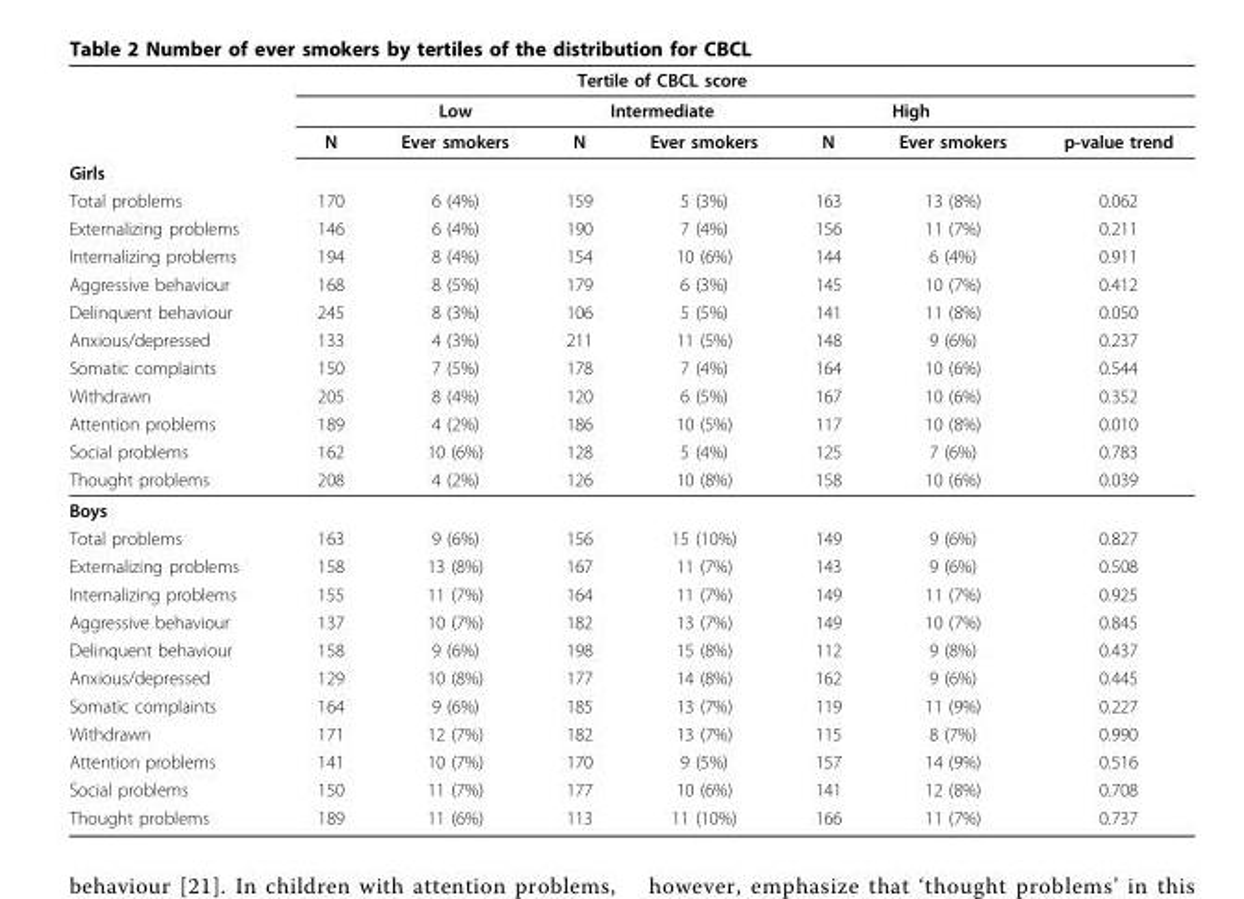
<table><thead><tr><td rowspan="15">Girls Total problems Externalizing problems Internalizing problems Aggressive behaviour Delinquent behaviour Anxious/depressed Somatic complaints Withdrawn Attention problems Social problems Thought problems</td><td colspan="6">Tertile of CBCL score</td><td rowspan="15">p-value trend 0.062 0.211 0.911 0.412 0.050 0.237 0.544 0.352 0.010 0.783 0.039</td></tr><tr><td rowspan="14">N 170 146 194 168 245 133 150 205 189 162 208</td><td rowspan="14">Low Ever smokers 6 (4%) 6 (4%) 8 (4%) 8 (5%) 8 (3%) 4 (3%) 7 (5%) 8 (4%) 4 (2%) 10 (6%) 4 (2%)</td><td colspan="2">Intermediate</td><td colspan="2">High</td></tr><tr><td rowspan="13">N 159 190 154 179 106 211 178 120 186 128 126</td><td rowspan="13">Ever smokers 5 (3%) 7 (4%) 10 (6%) 6 (3%) 5 (5%) 11 (5%) 7 (4%) 6 (5%) 10 (5%) 5 (4%) 10 (8%)</td><td rowspan="13">N 163 156 144 145 141 148 164 167 117 125 158</td><td rowspan="13">Ever smokers 13 (8%) 11 (7%) 6 (4%) 10 (7%) 11 (8%) 9 (6%) 10 (6%) 10 (6%) 10 (8%) 7 (6%) 10 (6%)</td></tr><tr></tr><tr></tr><tr></tr><tr></tr><tr></tr><tr></tr><tr></tr><tr></tr><tr></tr><tr></tr><tr></tr><tr></tr></thead><tbody><tr><td colspan="8">Boys</td></tr><tr><td>Total problems</td><td>163</td><td>9 (6%)</td><td>156</td><td>15 (10%)</td><td>149</td><td>9 (6%)</td><td>0.827</td></tr><tr><td>Externalizing problems</td><td>158</td><td>13 (8%)</td><td>167</td><td>11 (7%)</td><td>143</td><td>9 (6%)</td><td>0.508</td></tr><tr><td>Internalizing problems</td><td>155</td><td>11 (7%)</td><td>164</td><td>11 (7%)</td><td>149</td><td>11 (7%)</td><td>0.925</td></tr><tr><td>Aggressive behaviour</td><td>137</td><td>10 (7%)</td><td>182</td><td>13 (7%)</td><td>149</td><td>10 (7%)</td><td>0.845</td></tr><tr><td>Delinquent behaviour</td><td>158</td><td>9 (6%)</td><td>198</td><td>15 (8%)</td><td>112</td><td>9 (8%)</td><td>0.437</td></tr><tr><td>Anxious/depressed</td><td>129</td><td>10 (8%)</td><td>177</td><td>14 (8%)</td><td>162</td><td>9 (6%)</td><td>0.445</td></tr><tr><td>Somatic complaints</td><td>164</td><td>9 (6%)</td><td>185</td><td>13 (7%)</td><td>119</td><td>11 (9%)</td><td>0.227</td></tr><tr><td>Withdrawn</td><td>171</td><td>12 (7%)</td><td>182</td><td>13 (7%)</td><td>115</td><td>8 (7%)</td><td>0.990</td></tr><tr><td>Attention problems</td><td>141</td><td>10 (7%)</td><td>170</td><td>9 (5%)</td><td>157</td><td>14 (9%)</td><td>0.516</td></tr><tr><td>Social problems</td><td>150</td><td>11 (7%)</td><td>177</td><td>10 (6%)</td><td>141</td><td>12 (8%)</td><td>0.708</td></tr><tr><td>Thought problems</td><td>189</td><td>11 (6%)</td><td>113</td><td>11 (10%)</td><td>166</td><td>11 (7%)</td><td>0.737</td></tr></tbody></table>